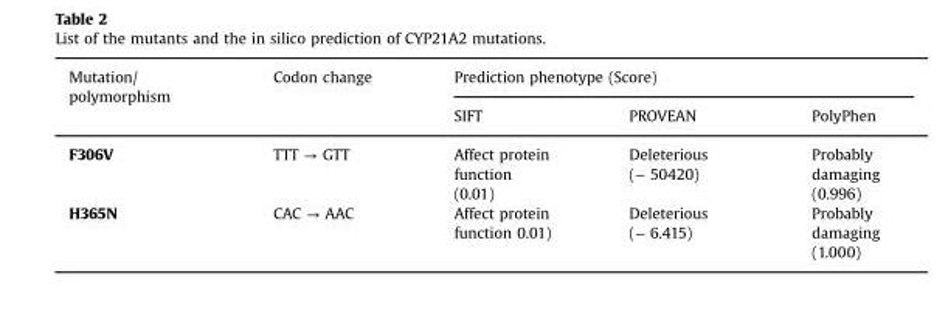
<table><thead><tr><td rowspan="2">Mutation/ polymorphism</td><td rowspan="2">Codon change</td><td colspan="3">Prediction phenotype (Score)</td></tr><tr><td>SIFT</td><td>PROVEAN</td><td>PolyPhen</td></tr></thead><tbody><tr><td>F306V</td><td>TTT → GTT</td><td>Affect protein function (0.01)</td><td>Deleterious (− 50420)</td><td>Probably damaging (0.996)</td></tr><tr><td>H365N</td><td>CAC → AAC</td><td>Affect protein function 0.01)</td><td>Deleterious (− 6.415)</td><td>Probably damaging (1.000)</td></tr></tbody></table>